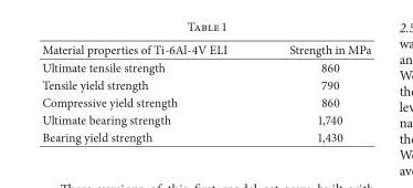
<table><thead><tr><td>Material properties of Ti-6Al-4V ELI</td><td>Strength in MPa</td></tr></thead><tbody><tr><td>Ultimate tensile strength</td><td>860</td></tr><tr><td>Tensile yield strength</td><td>790</td></tr><tr><td>Compressive yield strength</td><td>860</td></tr><tr><td>Ultimate bearing strength</td><td>1,740</td></tr><tr><td>Bearing yield strength</td><td>1,430</td></tr></tbody></table>